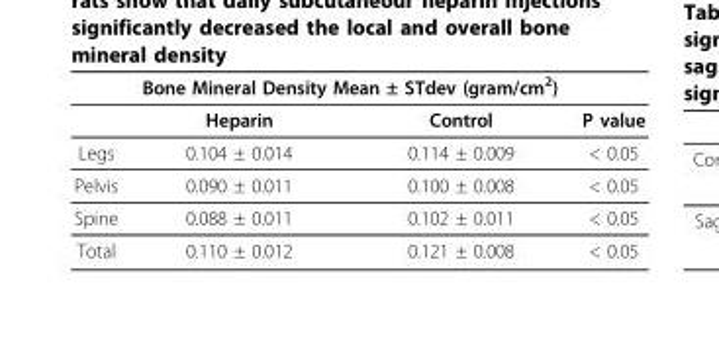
<table><thead><tr><td rowspan="2"></td><td colspan="2">Bone Mineral Density Mean ± STdev (gram/cm<sup>2</sup>)</td><td rowspan="2">P value</td></tr><tr><td>Heparin</td><td>Control</td></tr></thead><tbody><tr><td>Legs</td><td>0.104 ± 0.014</td><td>0.114 ± 0.009</td><td>&lt; 0.05</td></tr><tr><td>Pelvis</td><td>0.090 ± 0.011</td><td>0.100 ± 0.008</td><td>&lt; 0.05</td></tr><tr><td>Spine</td><td>0.088 ± 0.011</td><td>0.102 ± 0.011</td><td>&lt; 0.05</td></tr><tr><td>Total</td><td>0.110 ± 0.012</td><td>0.121 ± 0.008</td><td>&lt; 0.05</td></tr></tbody></table>